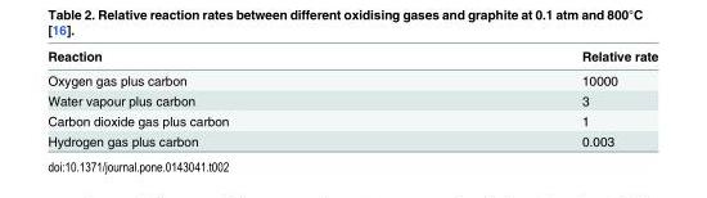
<table><thead><tr><td>Reaction</td><td>Relative rate</td></tr></thead><tbody><tr><td>Oxygen gas plus carbon</td><td>10000</td></tr><tr><td>Water vapour plus carbon</td><td>3</td></tr><tr><td>Carbon dioxide gas plus carbon</td><td>1</td></tr><tr><td>Hydrogen gas plus carbon</td><td>0.003</td></tr></tbody></table>